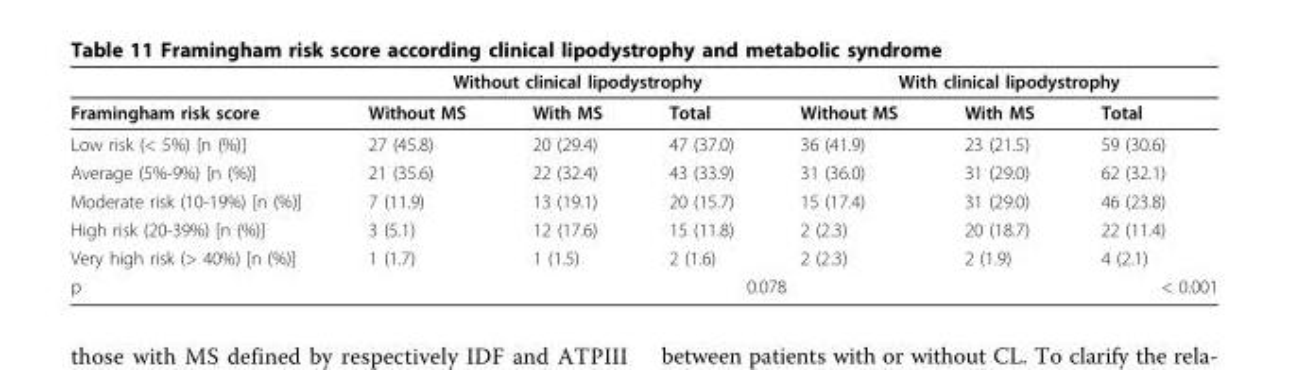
<table><thead><tr><td rowspan="2">Framingham risk score</td><td colspan="3">Without clinical lipodystrophy</td><td colspan="3">With clinical lipodystrophy</td></tr><tr><td>Without MS</td><td>With MS</td><td>Total</td><td>Without MS</td><td>With MS</td><td>Total</td></tr></thead><tbody><tr><td>Low risk (&lt; 5%) [n (%)]</td><td>27 (45.8)</td><td>20 (29.4)</td><td>47 (37.0)</td><td>36 (41.9)</td><td>23 (21.5)</td><td>59 (30.6)</td></tr><tr><td>Average (5%-9%) [n (%)]</td><td>21 (35.6)</td><td>22 (32.4)</td><td>43 (33.9)</td><td>31 (36.0)</td><td>31 (29.0)</td><td>62 (32.1)</td></tr><tr><td>Moderate risk (10-19%) [n (%)]</td><td>7 (11.9)</td><td>13 (19.1)</td><td>20 (15.7)</td><td>15 (17.4)</td><td>31 (29.0)</td><td>46 (23.8)</td></tr><tr><td>High risk (20-39%) [n (%)]</td><td>3 (5.1)</td><td>12 (17.6)</td><td>15 (11.8)</td><td>2 (2.3)</td><td>20 (18.7)</td><td>22 (11.4)</td></tr><tr><td>Very high risk (&gt; 40%) [n (%)]</td><td>1 (1.7)</td><td>1 (1.5)</td><td>2 (1.6)</td><td>2 (2.3)</td><td>2 (1.9)</td><td>4 (2.1)</td></tr><tr><td>p</td><td colspan="3">0.078</td><td colspan="3">&lt; 0.001</td></tr></tbody></table>